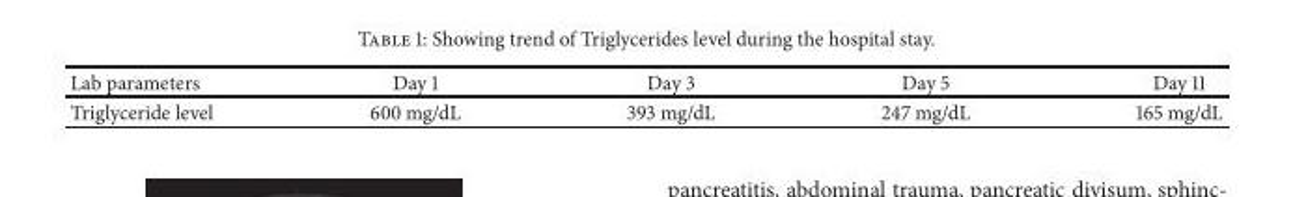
<table><thead><tr><td>Lab parameters</td><td>Day 1</td><td>Day 3</td><td>Day 5</td><td>Day 11</td></tr></thead><tbody><tr><td>Triglyceride level</td><td>600 mg/dL</td><td>393 mg/dL</td><td>247 mg/dL</td><td>165 mg/dL</td></tr></tbody></table>